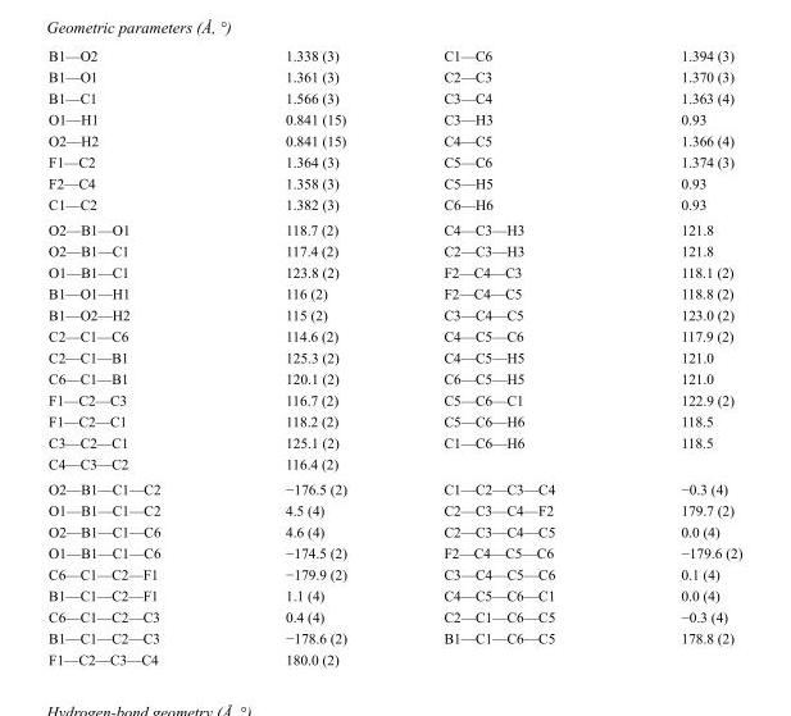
<table><tbody><tr><td>B1—O2</td><td>1.338 (3)</td><td>C1—C6</td><td>1.394 (3)</td></tr><tr><td>B1—O1</td><td>1.361 (3)</td><td>C2—C3</td><td>1.370 (3)</td></tr><tr><td>B1—C1</td><td>1.566 (3)</td><td>C3—C4</td><td>1.363 (4)</td></tr><tr><td>O1—H1</td><td>0.841 (15)</td><td>C3—H3</td><td>0.93</td></tr><tr><td>O2—H2</td><td>0.841 (15)</td><td>C4—C5</td><td>1.366 (4)</td></tr><tr><td>F1—C2</td><td>1.364 (3)</td><td>C5—C6</td><td>1.374 (3)</td></tr><tr><td>F2—C4</td><td>1.358 (3)</td><td>C5—H5</td><td>0.93</td></tr><tr><td>C1—C2</td><td>1.382 (3)</td><td>C6—H6</td><td>0.93</td></tr><tr><td>O2—B1—O1</td><td>118.7 (2)</td><td>C4—C3—H3</td><td>121.8</td></tr><tr><td>O2—B1—C1</td><td>117.4 (2)</td><td>C2—C3—H3</td><td>121.8</td></tr><tr><td>O1—B1—C1</td><td>123.8 (2)</td><td>F2—C4—C3</td><td>118.1 (2)</td></tr><tr><td>B1—O1—H1</td><td>116 (2)</td><td>F2—C4—C5</td><td>118.8 (2)</td></tr><tr><td>B1—O2—H2</td><td>115 (2)</td><td>C3—C4—C5</td><td>123.0 (2)</td></tr><tr><td>C2—C1—C6</td><td>114.6 (2)</td><td>C4—C5—C6</td><td>117.9 (2)</td></tr><tr><td>C2—C1—B1</td><td>125.3 (2)</td><td>C4—C5—H5</td><td>121.0</td></tr><tr><td>C6—C1—B1</td><td>120.1 (2)</td><td>C6—C5—H5</td><td>121.0</td></tr><tr><td>F1—C2—C3</td><td>116.7 (2)</td><td>C5—C6—C1</td><td>122.9 (2)</td></tr><tr><td>F1—C2—C1</td><td>118.2 (2)</td><td>C5—C6—H6</td><td>118.5</td></tr><tr><td>C3—C2—C1</td><td>125.1 (2)</td><td>C1—C6—H6</td><td>118.5</td></tr><tr><td>C4—C3—C2</td><td>116.4 (2)</td><td></td><td></td></tr><tr><td>O2—B1—C1—C2</td><td>−176.5 (2)</td><td>C1—C2—C3—C4</td><td>−0.3 (4)</td></tr><tr><td>O1—B1—C1—C2</td><td>4.5 (4)</td><td>C2—C3—C4—F2</td><td>179.7 (2)</td></tr><tr><td>O2—B1—C1—C6</td><td>4.6 (4)</td><td>C2—C3—C4—C5</td><td>0.0 (4)</td></tr><tr><td>O1—B1—C1—C6</td><td>−174.5 (2)</td><td>F2—C4—C5—C6</td><td>−179.6 (2)</td></tr><tr><td>C6—C1—C2—F1</td><td>−179.9 (2)</td><td>C3—C4—C5—C6</td><td>0.1 (4)</td></tr><tr><td>B1—C1—C2—F1</td><td>1.1 (4)</td><td>C4—C5—C6—C1</td><td>0.0 (4)</td></tr><tr><td>C6—C1—C2—C3</td><td>0.4 (4)</td><td>C2—C1—C6—C5</td><td>−0.3 (4)</td></tr><tr><td>B1—C1—C2—C3</td><td>−178.6 (2)</td><td>B1—C1—C6—C5</td><td>178.8 (2)</td></tr><tr><td>F1—C2—C3—C4</td><td>180.0 (2)</td><td></td><td></td></tr></tbody></table>